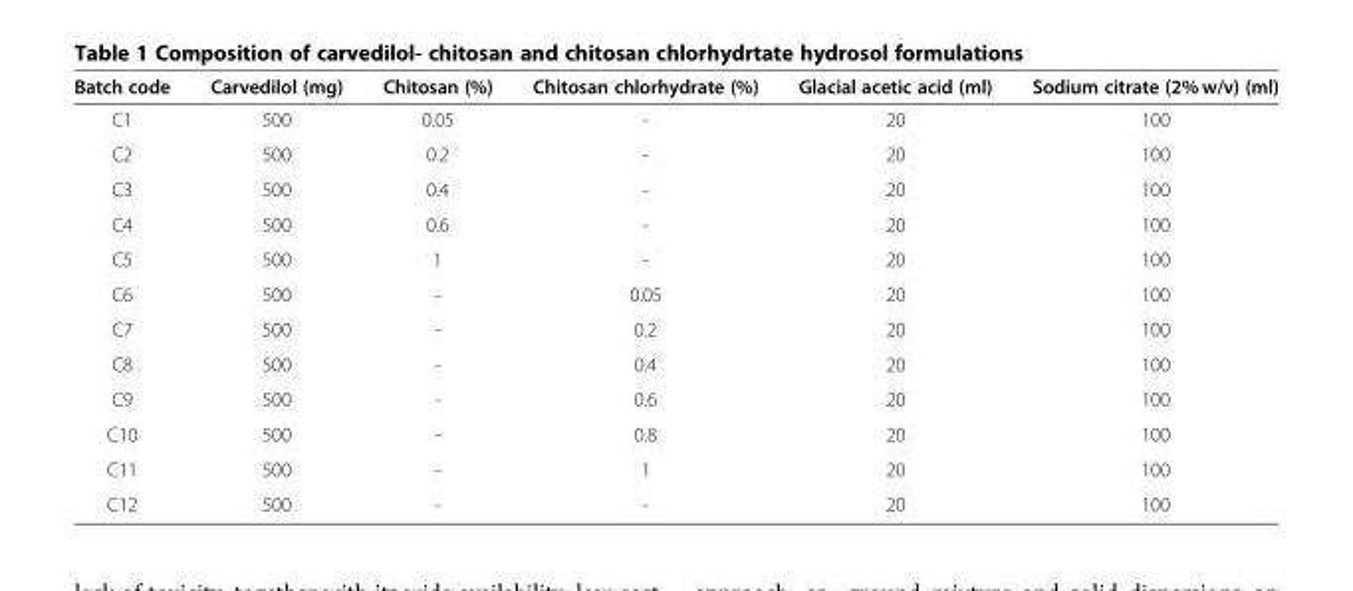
<table><thead><tr><td>Batch code</td><td>Carvedilol (mg)</td><td>Chitosan (%)</td><td>Chitosan chlorhydrate (%)</td><td>Glacial acetic acid (ml)</td><td>Sodium citrate (2% w/v) (ml)</td></tr></thead><tbody><tr><td>C1</td><td>500</td><td>0.05</td><td>-</td><td>20</td><td>100</td></tr><tr><td>C2</td><td>500</td><td>0.2</td><td>-</td><td>20</td><td>100</td></tr><tr><td>C3</td><td>500</td><td>0.4</td><td>-</td><td>20</td><td>100</td></tr><tr><td>C4</td><td>500</td><td>0.6</td><td>-</td><td>20</td><td>100</td></tr><tr><td>C5</td><td>500</td><td>1</td><td>-</td><td>20</td><td>100</td></tr><tr><td>C6</td><td>500</td><td>-</td><td>0.05</td><td>20</td><td>100</td></tr><tr><td>C7</td><td>500</td><td>-</td><td>0.2</td><td>20</td><td>100</td></tr><tr><td>C8</td><td>500</td><td>-</td><td>0.4</td><td>20</td><td>100</td></tr><tr><td>C9</td><td>500</td><td>-</td><td>0.6</td><td>20</td><td>100</td></tr><tr><td>C10</td><td>500</td><td>-</td><td>0.8</td><td>20</td><td>100</td></tr><tr><td>C11</td><td>500</td><td>-</td><td>1</td><td>20</td><td>100</td></tr><tr><td>C12</td><td>500</td><td>-</td><td>-</td><td>20</td><td>100</td></tr></tbody></table>